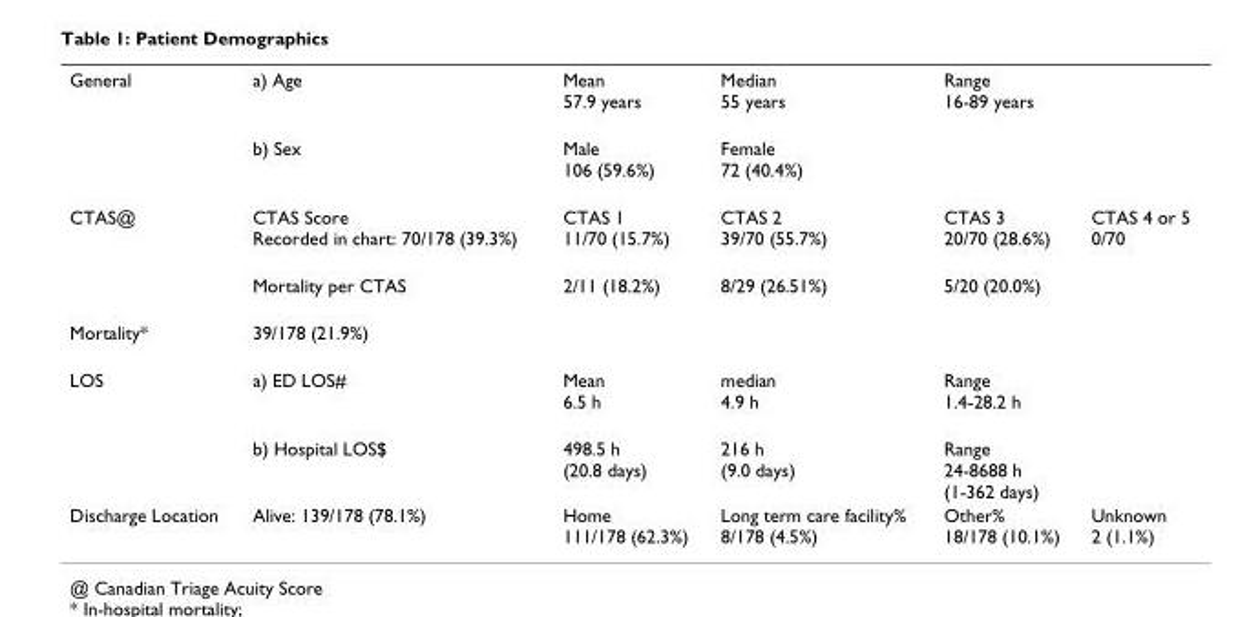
<table><tbody><tr><td rowspan="2">General</td><td>a) Age</td><td>Mean 57.9 years</td><td>Median 55 years</td><td>Range 16-89 years</td><td></td></tr><tr><td>b) Sex</td><td>Male 106 (59.6%)</td><td>Female 72 (40.4%)</td><td></td><td></td></tr><tr><td rowspan="2">CTAS@</td><td>CTAS Score Recorded in chart: 70/178 (39.3%)</td><td>CTAS 1 11/70 (15.7%)</td><td>CTAS 2 39/70 (55.7%)</td><td>CTAS 3 20/70 (28.6%)</td><td>CTAS 4 or 5 0/70</td></tr><tr><td>Mortality per CTAS</td><td>2/11 (18.2%)</td><td>8/29 (26.51%)</td><td>5/20 (20.0%)</td><td></td></tr><tr><td>Mortality*</td><td>39/178 (21.9%)</td><td></td><td></td><td></td><td></td></tr><tr><td rowspan="2">LOS</td><td>a) ED LOS#</td><td>Mean 6.5 h</td><td>median 4.9 h</td><td>Range 1.4-28.2 h</td><td></td></tr><tr><td>b) Hospital LOS$</td><td>498.5 h (20.8 days)</td><td>216 h (9.0 days)</td><td>Range 24-8688 h (1-362 days)</td><td></td></tr><tr><td>Discharge Location</td><td>Alive: 139/178 (78.1%)</td><td>Home 111/178 (62.3%)</td><td>Long term care facility% 8/178 (4.5%)</td><td>Other% 18/178 (10.1%)</td><td>Unknown 2 (1.1%)</td></tr></tbody></table>